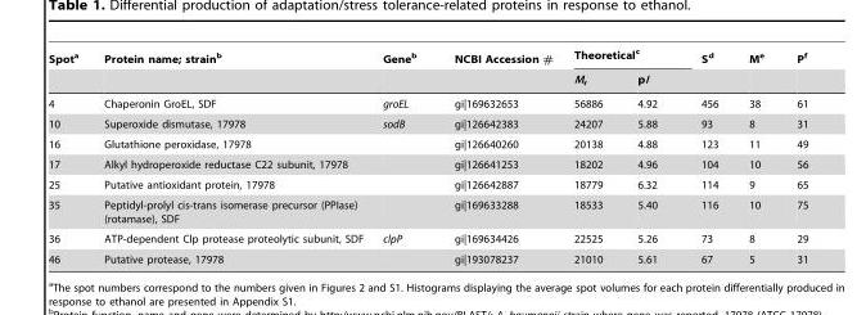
<table><thead><tr><td rowspan="2">Spot<sup>a</sup></td><td rowspan="2">Protein name; strain<sup>b</sup></td><td rowspan="2">Gene<sup>b</sup></td><td rowspan="2">NCBI Accession #</td><td colspan="2">Theoretical<sup>c</sup></td><td rowspan="2">S<sup>d</sup></td><td rowspan="2">M<sup>e</sup></td><td rowspan="2">P<sup>f</sup></td></tr><tr><td>M<sub>r</sub></td><td>pI</td></tr></thead><tbody><tr><td>4</td><td>Chaperonin GroEL, SDF</td><td>groEL</td><td>gi|169632653</td><td>56886</td><td>4.92</td><td>456</td><td>38</td><td>61</td></tr><tr><td>10</td><td>Superoxide dismutase, 17978</td><td>sodB</td><td>gi|126642383</td><td>24207</td><td>5.88</td><td>93</td><td>8</td><td>31</td></tr><tr><td>16</td><td>Glutathione peroxidase, 17978</td><td></td><td>gi|126640260</td><td>20138</td><td>4.88</td><td>123</td><td>11</td><td>49</td></tr><tr><td>17</td><td>Alkyl hydroperoxide reductase C22 subunit, 17978</td><td></td><td>gi|126641253</td><td>18202</td><td>4.96</td><td>104</td><td>10</td><td>56</td></tr><tr><td>25</td><td>Putative antioxidant protein, 17978</td><td></td><td>gi|126642887</td><td>18779</td><td>6.32</td><td>114</td><td>9</td><td>65</td></tr><tr><td>35</td><td>Peptidyl-prolyl cis-trans isomerase precursor (PPIase) (rotamase), SDF</td><td></td><td>gi|169633288</td><td>18533</td><td>5.40</td><td>116</td><td>10</td><td>75</td></tr><tr><td>36</td><td>ATP-dependent Clp protease proteolytic subunit, SDF</td><td>clpP</td><td>gi|169634426</td><td>22525</td><td>5.26</td><td>73</td><td>8</td><td>29</td></tr><tr><td>46</td><td>Putative protease, 17978</td><td></td><td>gi|193078237</td><td>21010</td><td>5.61</td><td>67</td><td>5</td><td>31</td></tr></tbody></table>